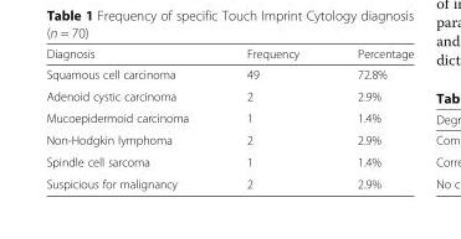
<table><thead><tr><td>Diagnosis</td><td>Frequency</td><td>Percentage</td></tr></thead><tbody><tr><td>Squamous cell carcinoma</td><td>49</td><td>72.8%</td></tr><tr><td>Adenoid cystic carcinoma</td><td>2</td><td>2.9%</td></tr><tr><td>Mucoepidermoid carcinoma</td><td>1</td><td>1.4%</td></tr><tr><td>Non-Hodgkin lymphoma</td><td>2</td><td>2.9%</td></tr><tr><td>Spindle cell sarcoma</td><td>1</td><td>1.4%</td></tr><tr><td>Suspicious for malignancy</td><td>2</td><td>2.9%</td></tr></tbody></table>